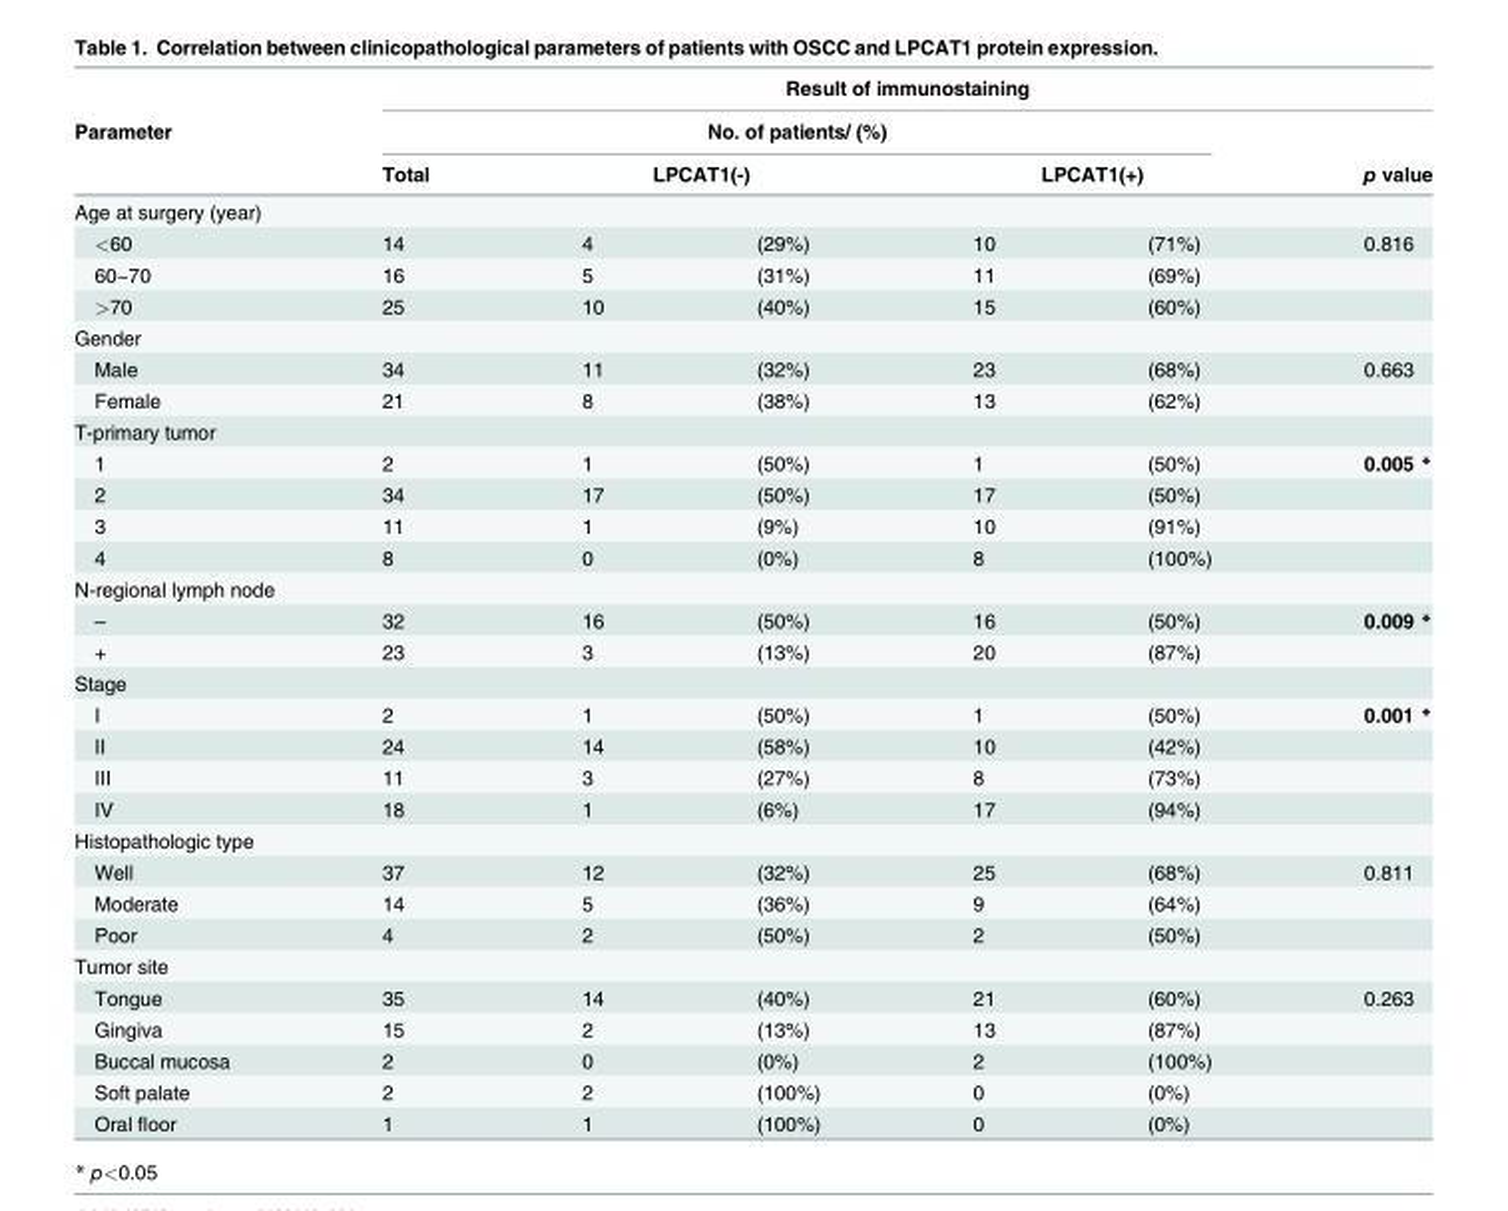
<table><thead><tr><td rowspan="3">Parameter</td><td colspan="6">Result of immunostaining</td></tr><tr><td colspan="5">No. of patients/ (%)</td><td rowspan="2">p value</td></tr><tr><td>Total</td><td colspan="2">LPCAT1(-)</td><td colspan="2">LPCAT1(+)</td></tr><tr><td colspan="7">Age at surgery (year)</td></tr><tr><td>&lt;60</td><td>14</td><td>4</td><td>(29%)</td><td>10</td><td>(71%)</td><td>0.816</td></tr></thead><tbody><tr><td>60~70</td><td>16</td><td>5</td><td>(31%)</td><td>11</td><td>(69%)</td><td></td></tr><tr><td>&gt;70</td><td>25</td><td>10</td><td>(40%)</td><td>15</td><td>(60%)</td><td></td></tr><tr><td colspan="7">Gender</td></tr><tr><td>Male</td><td>34</td><td>11</td><td>(32%)</td><td>23</td><td>(68%)</td><td>0.663</td></tr><tr><td>Female</td><td>21</td><td>8</td><td>(38%)</td><td>13</td><td>(62%)</td><td></td></tr><tr><td colspan="7">T-primary tumor</td></tr><tr><td>1</td><td>2</td><td>1</td><td>(50%)</td><td>1</td><td>(50%)</td><td>0.005 *</td></tr><tr><td>2</td><td>34</td><td>17</td><td>(50%)</td><td>17</td><td>(50%)</td><td></td></tr><tr><td>3</td><td>11</td><td>1</td><td>(9%)</td><td>10</td><td>(91%)</td><td></td></tr><tr><td>4</td><td>8</td><td>0</td><td>(0%)</td><td>8</td><td>(100%)</td><td></td></tr><tr><td colspan="7">N-regional lymph node</td></tr><tr><td>–</td><td>32</td><td>16</td><td>(50%)</td><td>16</td><td>(50%)</td><td>0.009 *</td></tr><tr><td>+</td><td>23</td><td>3</td><td>(13%)</td><td>20</td><td>(87%)</td><td></td></tr><tr><td colspan="7">Stage</td></tr><tr><td>I</td><td>2</td><td>1</td><td>(50%)</td><td>1</td><td>(50%)</td><td>0.001 *</td></tr><tr><td>II</td><td>24</td><td>14</td><td>(58%)</td><td>10</td><td>(42%)</td><td></td></tr><tr><td>III</td><td>11</td><td>3</td><td>(27%)</td><td>8</td><td>(73%)</td><td></td></tr><tr><td>IV</td><td>18</td><td>1</td><td>(6%)</td><td>17</td><td>(94%)</td><td></td></tr><tr><td colspan="7">Histopathologic type</td></tr><tr><td>Well</td><td>37</td><td>12</td><td>(32%)</td><td>25</td><td>(68%)</td><td>0.811</td></tr><tr><td>Moderate</td><td>14</td><td>5</td><td>(36%)</td><td>9</td><td>(64%)</td><td></td></tr><tr><td>Poor</td><td>4</td><td>2</td><td>(50%)</td><td>2</td><td>(50%)</td><td></td></tr><tr><td colspan="7">Tumor site</td></tr><tr><td>Tongue</td><td>35</td><td>14</td><td>(40%)</td><td>21</td><td>(60%)</td><td>0.263</td></tr><tr><td>Gingiva</td><td>15</td><td>2</td><td>(13%)</td><td>13</td><td>(87%)</td><td></td></tr><tr><td>Buccal mucosa</td><td>2</td><td>0</td><td>(0%)</td><td>2</td><td>(100%)</td><td></td></tr><tr><td>Soft palate</td><td>2</td><td>2</td><td>(100%)</td><td>0</td><td>(0%)</td><td></td></tr><tr><td>Oral floor</td><td>1</td><td>1</td><td>(100%)</td><td>0</td><td>(0%)</td><td></td></tr></tbody></table>